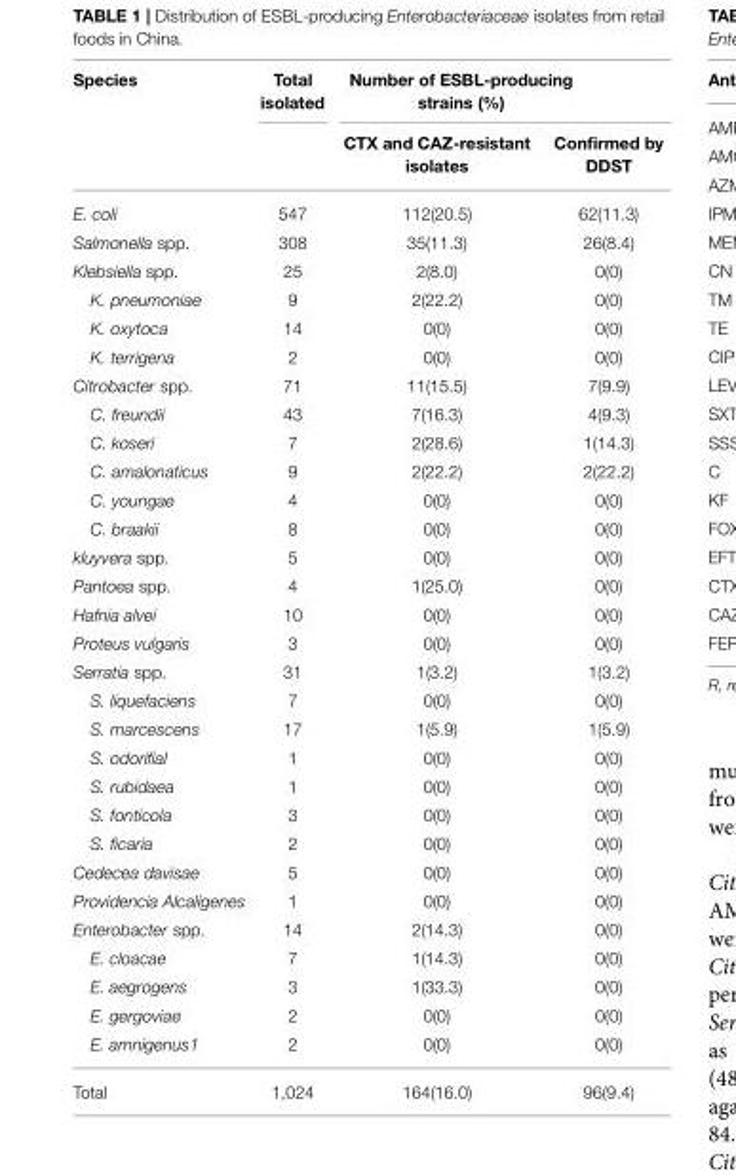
<table><thead><tr><td rowspan="2">Species</td><td rowspan="2">Total isolated</td><td colspan="2">Number of ESBL-producing strains (%)</td></tr><tr><td>CTX and CAZ-resistant isolates</td><td>Confirmed by DDST</td></tr></thead><tbody><tr><td>E. coli</td><td>547</td><td>112(20.5)</td><td>62(11.3)</td></tr><tr><td>Salmonella spp.</td><td>308</td><td>35(11.3)</td><td>26(8.4)</td></tr><tr><td>Klebsiella spp.</td><td>25</td><td>2(8.0)</td><td>0(0)</td></tr><tr><td>K. pneumoniae</td><td>9</td><td>2(22.2)</td><td>0(0)</td></tr><tr><td>K. oxytoca</td><td>14</td><td>0(0)</td><td>0(0)</td></tr><tr><td>K. terrigena</td><td>2</td><td>0(0)</td><td>0(0)</td></tr><tr><td>Citrobacter spp.</td><td>71</td><td>11(15.5)</td><td>7(9.9)</td></tr><tr><td>C. freundii</td><td>43</td><td>7(16.3)</td><td>4(9.3)</td></tr><tr><td>C. koseri</td><td>7</td><td>2(28.6)</td><td>1(14.3)</td></tr><tr><td>C. amalonaticus</td><td>9</td><td>2(22.2)</td><td>2(22.2)</td></tr><tr><td>C. youngae</td><td>4</td><td>0(0)</td><td>0(0)</td></tr><tr><td>C. braakii</td><td>8</td><td>0(0)</td><td>0(0)</td></tr><tr><td>kluyvera spp.</td><td>5</td><td>0(0)</td><td>0(0)</td></tr><tr><td>Pantoea spp.</td><td>4</td><td>1(25.0)</td><td>0(0)</td></tr><tr><td>Hafnia alvei</td><td>10</td><td>0(0)</td><td>0(0)</td></tr><tr><td>Proteus vulgaris</td><td>3</td><td>0(0)</td><td>0(0)</td></tr><tr><td>Serratia spp.</td><td>31</td><td>1(3.2)</td><td>1(3.2)</td></tr><tr><td>S. liquefaciens</td><td>7</td><td>0(0)</td><td>0(0)</td></tr><tr><td>S. marcescens</td><td>17</td><td>1(5.9)</td><td>1(5.9)</td></tr><tr><td>S. odorifial</td><td>1</td><td>0(0)</td><td>0(0)</td></tr><tr><td>S. rubidaea</td><td>1</td><td>0(0)</td><td>0(0)</td></tr><tr><td>S. fonticola</td><td>3</td><td>0(0)</td><td>0(0)</td></tr><tr><td>S. ficaria</td><td>2</td><td>0(0)</td><td>0(0)</td></tr><tr><td>Cedecea davisae</td><td>5</td><td>0(0)</td><td>0(0)</td></tr><tr><td>Providencia Alcaligenes</td><td>1</td><td>0(0)</td><td>0(0)</td></tr><tr><td>Enterobacter spp.</td><td>14</td><td>2(14.3)</td><td>0(0)</td></tr><tr><td>E. cloacae</td><td>7</td><td>1(14.3)</td><td>0(0)</td></tr><tr><td>E. aegrogens</td><td>3</td><td>1(33.3)</td><td>0(0)</td></tr><tr><td>E. gergoviae</td><td>2</td><td>0(0)</td><td>0(0)</td></tr><tr><td>E. amnigenus1</td><td>2</td><td>0(0)</td><td>0(0)</td></tr><tr><td>Total</td><td>1,024</td><td>164(16.0)</td><td>96(9.4)</td></tr></tbody></table>